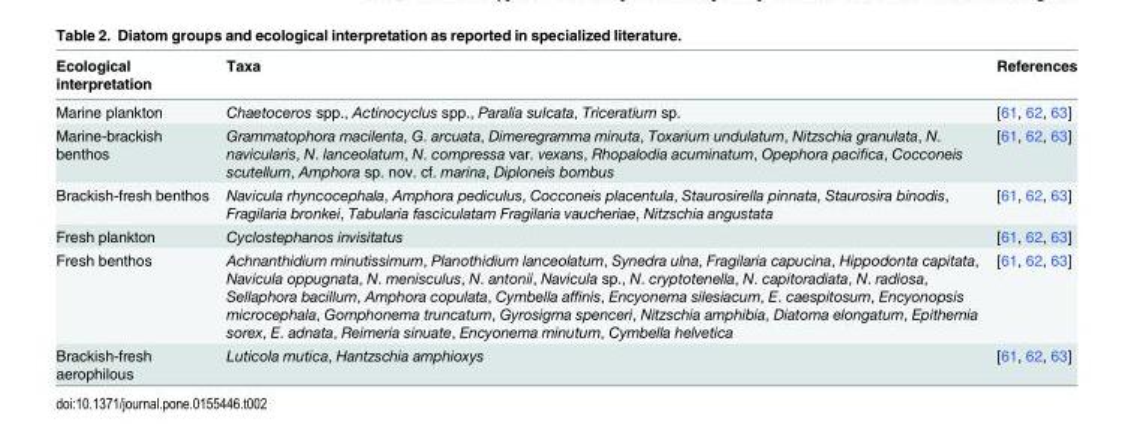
<table><thead><tr><td>Ecological interpretation</td><td>Taxa</td><td>References</td></tr></thead><tbody><tr><td>Marine plankton</td><td>Chaetoceros spp., Actinocyclus spp., Paralia sulcata, Triceratium sp.</td><td>[61, 62, 63]</td></tr><tr><td>Marine-brackish benthos</td><td>Grammatophora macilenta, G. arcuata, Dimeregramma minuta, Toxarium undulatum, Nitzschia granulata, N. navicularis, N. lanceolatum, N. compressa var. vexans, Rhopalodia acuminatum, Opephora pacifica, Cocconeis scutellum, Amphora sp. nov. cf. marina, Diploneis bombus</td><td>[61, 62, 63]</td></tr><tr><td>Brackish-fresh benthos</td><td>Navicula rhyncocephala, Amphora pediculus, Cocconeis placentula, Staurosirella pinnata, Staurosira binodis, Fragilaria bronkei, Tabularia fasciculatam Fragilaria vaucheriae, Nitzschia angustata</td><td>[61, 62, 63]</td></tr><tr><td>Fresh plankton</td><td>Cyclostephanos invisitatus</td><td>[61, 62, 63]</td></tr><tr><td>Fresh benthos</td><td>Achnanthidium minutissimum, Planothidium lanceolatum, Synedra ulna, Fragilaria capucina, Hippodonta capitata, Navicula oppugnata, N. menisculus, N. antonii, Navicula sp., N. cryptotenella, N. capitoradiata, N. radiosa, Sellaphora bacillum, Amphora copulata, Cymbella affinis, Encyonema silesiacum, E. caespitosum, Encyonopsis microcephala, Gomphonema truncatum, Gyrosigma spenceri, Nitzschia amphibia, Diatoma elongatum, Epithemia sorex, E. adnata, Reimeria sinuate, Encyonema minutum, Cymbella helvetica</td><td>[61, 62, 63]</td></tr><tr><td>Brackish-fresh aerophilous</td><td>Luticola mutica, Hantzschia amphioxys</td><td>[61, 62, 63]</td></tr></tbody></table>